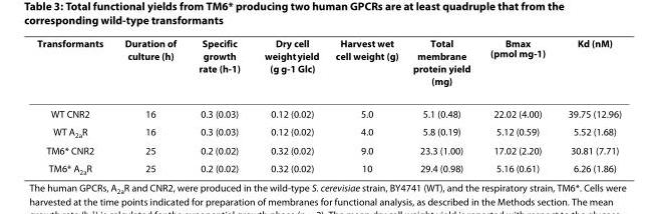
<table><thead><tr><td>Transformants</td><td>Duration of culture (h)</td><td>Specific growth rate (h<sup>-1</sup>)</td><td>Dry cell weight yield (g g<sup>-1</sup> Glc)</td><td>Harvest wet cell weight (g)</td><td>Total membrane protein yield (mg)</td><td>B<sub>max</sub> (pmol mg<sup>-1</sup>)</td><td>K<sub>d</sub> (nM)</td></tr></thead><tbody><tr><td>WT CNR2</td><td>16</td><td>0.3 (0.03)</td><td>0.12 (0.02)</td><td>5.0</td><td>5.1 (0.48)</td><td>22.02 (4.00)</td><td>39.75 (12.96)</td></tr><tr><td>WT A<sub>2a</sub>R</td><td>16</td><td>0.3 (0.03)</td><td>0.12 (0.02)</td><td>4.0</td><td>5.8 (0.19)</td><td>5.12 (0.59)</td><td>5.52 (1.68)</td></tr><tr><td>TM6* CNR2</td><td>25</td><td>0.2 (0.02)</td><td>0.32 (0.02)</td><td>9.0</td><td>23.3 (1.00)</td><td>17.02 (2.20)</td><td>30.81 (7.71)</td></tr><tr><td>TM6* A<sub>2a</sub>R</td><td>25</td><td>0.2 (0.02)</td><td>0.32 (0.02)</td><td>10</td><td>29.4 (0.98)</td><td>5.16 (0.61)</td><td>6.26 (1.86)</td></tr></tbody></table>